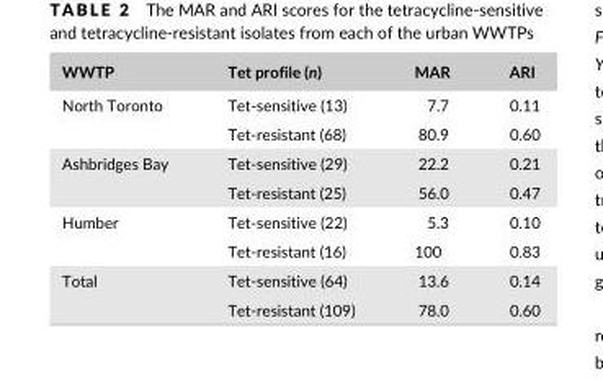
<table><thead><tr><td>WWTP</td><td>Tet profile (n)</td><td>MAR</td><td>ARI</td></tr></thead><tbody><tr><td rowspan="2">North Toronto</td><td>Tet- sensitive (13)</td><td>7.7</td><td>0.11</td></tr><tr><td>Tet- resistant (68)</td><td>80.9</td><td>0.60</td></tr><tr><td rowspan="2">Ashbridges Bay</td><td>Tet- sensitive (29)</td><td>22.2</td><td>0.21</td></tr><tr><td>Tet- resistant (25)</td><td>56.0</td><td>0.47</td></tr><tr><td rowspan="2">Humber</td><td>Tet- sensitive (22)</td><td>5.3</td><td>0.10</td></tr><tr><td>Tet- resistant (16)</td><td>100</td><td>0.83</td></tr><tr><td rowspan="2">Total</td><td>Tet- sensitive (64)</td><td>13.6</td><td>0.14</td></tr><tr><td>Tet- resistant (109)</td><td>78.0</td><td>0.60</td></tr></tbody></table>